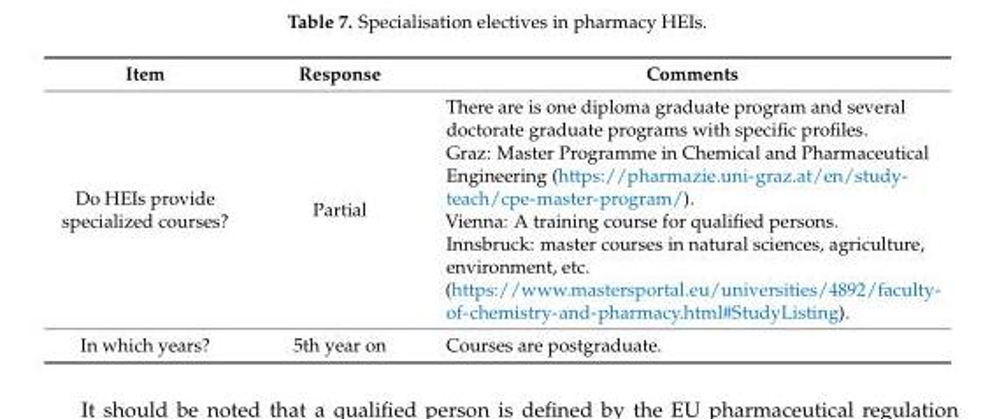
<table><thead><tr><td>Item</td><td>Response</td><td>Comments</td></tr></thead><tbody><tr><td>Do HEIs provide specialized courses?</td><td>Partial</td><td>There are is one diploma graduate program and several doctorate graduate programs with specific profiles. Graz: Master Programme in Chemical and Pharmaceutical Engineering (https://pharmazie.uni-graz.at/en/study- teach/cpe-master-program/). Vienna: A training course for qualified persons. Innsbruck: master courses in natural sciences, agriculture, environment, etc. (https://www.mastersportal.eu/universities/4892/faculty- of-chemistry-and-pharmacy.html#StudyListing).</td></tr><tr><td>In which years?</td><td>5th year on</td><td>Courses are postgraduate.</td></tr></tbody></table>